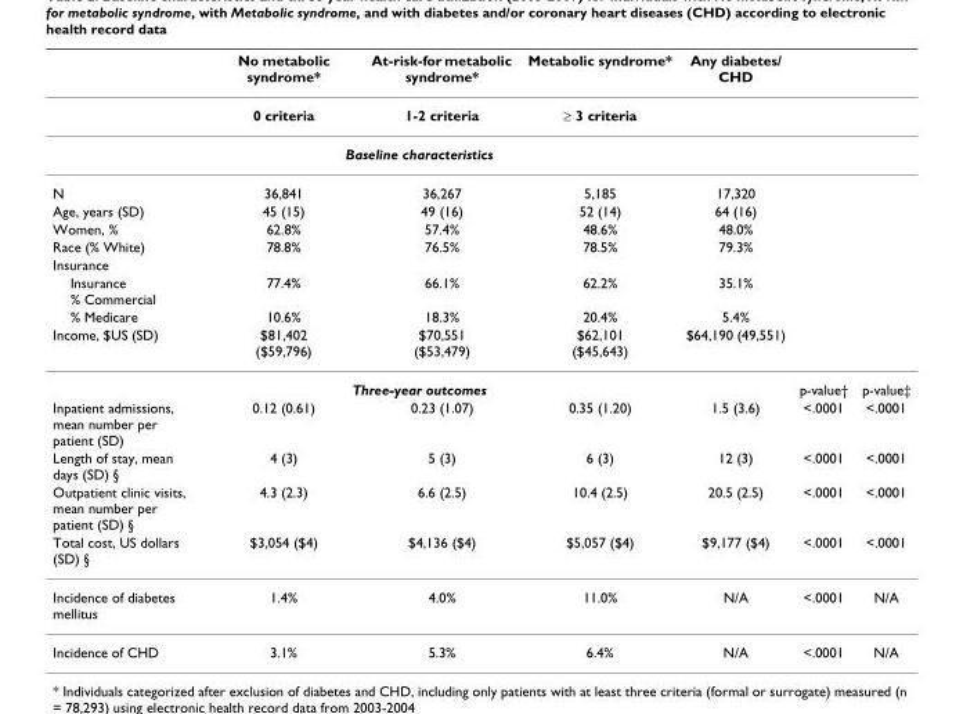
<table><thead><tr><td></td><td>No metabolic syndrome*</td><td>At-risk-for metabolic syndrome*</td><td>Metabolic syndrome*</td><td>Any diabetes/ CHD</td><td></td><td></td></tr></thead><tbody><tr><td></td><td>0 criteria</td><td>1-2 criteria</td><td>≥ 3 criteria</td><td></td><td></td><td></td></tr><tr><td colspan="7">Baseline characteristics</td></tr><tr><td>N</td><td>36,841</td><td>36,267</td><td>5,185</td><td>17,320</td><td></td><td></td></tr><tr><td>Age, years (SD)</td><td>45 (15)</td><td>49 (16)</td><td>52 (14)</td><td>64 (16)</td><td></td><td></td></tr><tr><td>Women, %</td><td>62.8%</td><td>57.4%</td><td>48.6%</td><td>48.0%</td><td></td><td></td></tr><tr><td>Race (% White)</td><td>78.8%</td><td>76.5%</td><td>78.5%</td><td>79.3%</td><td></td><td></td></tr><tr><td colspan="7">Insurance</td></tr><tr><td>Insurance % Commercial</td><td>77.4%</td><td>66.1%</td><td>62.2%</td><td>35.1%</td><td></td><td></td></tr><tr><td>% Medicare</td><td>10.6%</td><td>18.3%</td><td>20.4%</td><td>5.4%</td><td></td><td></td></tr><tr><td>Income, $US (SD)</td><td>$81,402 ($59,796)</td><td>$70,551 ($53,479)</td><td>$62,101 ($45,643)</td><td>$64,190 (49,551)</td><td></td><td></td></tr><tr><td colspan="5">Three-year outcomes</td><td>p-value†</td><td>p-value‡</td></tr><tr><td>Inpatient admissions, mean number per patient (SD)</td><td>0.12 (0.61)</td><td>0.23 (1.07)</td><td>0.35 (1.20)</td><td>1.5 (3.6)</td><td>&lt;.0001</td><td>&lt;.0001</td></tr><tr><td>Length of stay, mean days (SD) §</td><td>4 (3)</td><td>5 (3)</td><td>6 (3)</td><td>12 (3)</td><td>&lt;.0001</td><td>&lt;.0001</td></tr><tr><td>Outpatient clinic visits, mean number per patient (SD) §</td><td>4.3 (2.3)</td><td>6.6 (2.5)</td><td>10.4 (2.5)</td><td>20.5 (2.5)</td><td>&lt;.0001</td><td>&lt;.0001</td></tr><tr><td>Total cost, US dollars (SD) §</td><td>$3,054 ($4)</td><td>$4,136 ($4)</td><td>$5,057 ($4)</td><td>$9,177 ($4)</td><td>&lt;.0001</td><td>&lt;.0001</td></tr><tr><td>Incidence of diabetes mellitus</td><td>1.4%</td><td>4.0%</td><td>11.0%</td><td>N/A</td><td>&lt;.0001</td><td>N/A</td></tr><tr><td>Incidence of CHD</td><td>3.1%</td><td>5.3%</td><td>6.4%</td><td>N/A</td><td>&lt;.0001</td><td>N/A</td></tr></tbody></table>